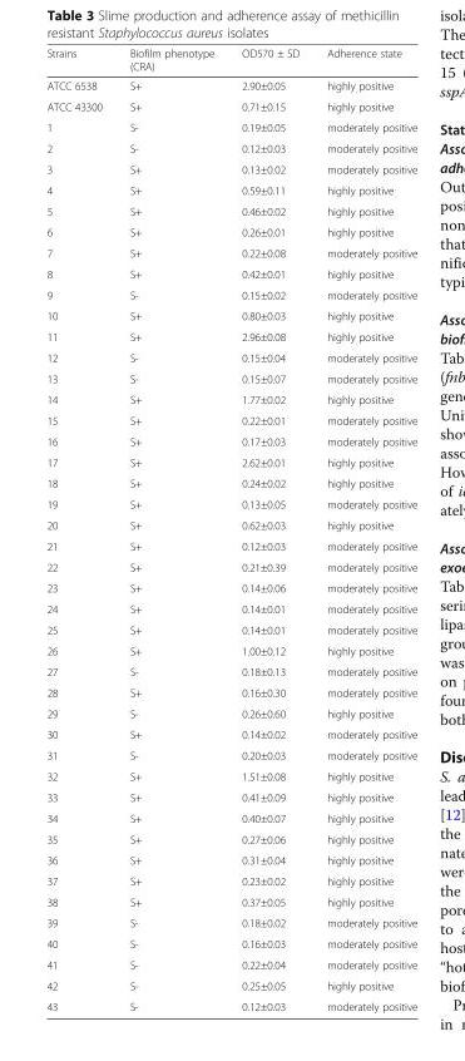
<table><thead><tr><td>Strains</td><td>Biofilm phenotype (CRA)</td><td>OD570 ± SD</td><td>Adherence state</td></tr></thead><tbody><tr><td>ATCC 6538</td><td>S+</td><td>2.90±0.05</td><td>highly positive</td></tr><tr><td>ATCC 43300</td><td>S+</td><td>0.71±0.15</td><td>highly positive</td></tr><tr><td>1</td><td>S-</td><td>0.19±0.05</td><td>moderately positive</td></tr><tr><td>2</td><td>S-</td><td>0.12±0.03</td><td>moderately positive</td></tr><tr><td>3</td><td>S+</td><td>0.13±0.02</td><td>moderately positive</td></tr><tr><td>4</td><td>S+</td><td>0.59±0.11</td><td>highly positive</td></tr><tr><td>5</td><td>S+</td><td>0.46±0.02</td><td>highly positive</td></tr><tr><td>6</td><td>S+</td><td>0.26±0.01</td><td>highly positive</td></tr><tr><td>7</td><td>S+</td><td>0.22±0.08</td><td>moderately positive</td></tr><tr><td>8</td><td>S+</td><td>0.42±0.01</td><td>highly positive</td></tr><tr><td>9</td><td>S-</td><td>0.15±0.02</td><td>moderately positive</td></tr><tr><td>10</td><td>S+</td><td>0.80±0.03</td><td>highly positive</td></tr><tr><td>11</td><td>S+</td><td>2.96±0.08</td><td>highly positive</td></tr><tr><td>12</td><td>S-</td><td>0.15±0.04</td><td>moderately positive</td></tr><tr><td>13</td><td>S-</td><td>0.15±0.07</td><td>moderately positive</td></tr><tr><td>14</td><td>S+</td><td>1.77±0.02</td><td>highly positive</td></tr><tr><td>15</td><td>S+</td><td>0.22±0.01</td><td>moderately positive</td></tr><tr><td>16</td><td>S+</td><td>0.17±0.03</td><td>moderately positive</td></tr><tr><td>17</td><td>S+</td><td>2.62±0.01</td><td>highly positive</td></tr><tr><td>18</td><td>S+</td><td>0.24±0.02</td><td>highly positive</td></tr><tr><td>19</td><td>S+</td><td>0.13±0.05</td><td>moderately positive</td></tr><tr><td>20</td><td>S+</td><td>0.62±0.03</td><td>highly positive</td></tr><tr><td>21</td><td>S+</td><td>0.12±0.03</td><td>moderately positive</td></tr><tr><td>22</td><td>S+</td><td>0.21±0.39</td><td>moderately positive</td></tr><tr><td>23</td><td>S+</td><td>0.14±0.06</td><td>moderately positive</td></tr><tr><td>24</td><td>S+</td><td>0.14±0.01</td><td>moderately positive</td></tr><tr><td>25</td><td>S+</td><td>0.14±0.01</td><td>moderately positive</td></tr><tr><td>26</td><td>S+</td><td>1.00±0.12</td><td>highly positive</td></tr><tr><td>27</td><td>S-</td><td>0.18±0.13</td><td>moderately positive</td></tr><tr><td>28</td><td>S+</td><td>0.16±0.30</td><td>moderately positive</td></tr><tr><td>29</td><td>S-</td><td>0.26±0.60</td><td>highly positive</td></tr><tr><td>30</td><td>S+</td><td>0.14±0.02</td><td>moderately positive</td></tr><tr><td>31</td><td>S-</td><td>0.20±0.03</td><td>moderately positive</td></tr><tr><td>32</td><td>S+</td><td>1.51±0.08</td><td>highly positive</td></tr><tr><td>33</td><td>S+</td><td>0.41±0.09</td><td>highly positive</td></tr><tr><td>34</td><td>S+</td><td>0.40±0.07</td><td>highly positive</td></tr><tr><td>35</td><td>S+</td><td>0.27±0.06</td><td>highly positive</td></tr><tr><td>36</td><td>S+</td><td>0.31±0.04</td><td>highly positive</td></tr><tr><td>37</td><td>S+</td><td>0.23±0.02</td><td>highly positive</td></tr><tr><td>38</td><td>S+</td><td>0.37±0.05</td><td>highly positive</td></tr><tr><td>39</td><td>S-</td><td>0.18±0.02</td><td>moderately positive</td></tr><tr><td>40</td><td>S-</td><td>0.16±0.03</td><td>moderately positive</td></tr><tr><td>41</td><td>S-</td><td>0.22±0.04</td><td>moderately positive</td></tr><tr><td>42</td><td>S-</td><td>0.25±0.05</td><td>highly positive</td></tr><tr><td>43</td><td>S-</td><td>0.12±0.03</td><td>moderately positive</td></tr></tbody></table>